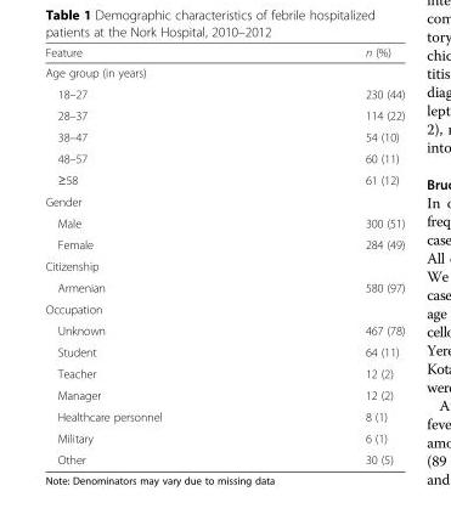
<table><thead><tr><td>Feature</td><td>n (%)</td></tr></thead><tbody><tr><td colspan="2">Age group (in years)</td></tr><tr><td>18–27</td><td>230 (44)</td></tr><tr><td>28–37</td><td>114 (22)</td></tr><tr><td>38–47</td><td>54 (10)</td></tr><tr><td>48–57</td><td>60 (11)</td></tr><tr><td>≥58</td><td>61 (12)</td></tr><tr><td colspan="2">Gender</td></tr><tr><td>Male</td><td>300 (51)</td></tr><tr><td>Female</td><td>284 (49)</td></tr><tr><td colspan="2">Citizenship</td></tr><tr><td>Armenian</td><td>580 (97)</td></tr><tr><td colspan="2">Occupation</td></tr><tr><td>Unknown</td><td>467 (78)</td></tr><tr><td>Student</td><td>64 (11)</td></tr><tr><td>Teacher</td><td>12 (2)</td></tr><tr><td>Manager</td><td>12 (2)</td></tr><tr><td>Healthcare personnel</td><td>8 (1)</td></tr><tr><td>Military</td><td>6 (1)</td></tr><tr><td>Other</td><td>30 (5)</td></tr></tbody></table>